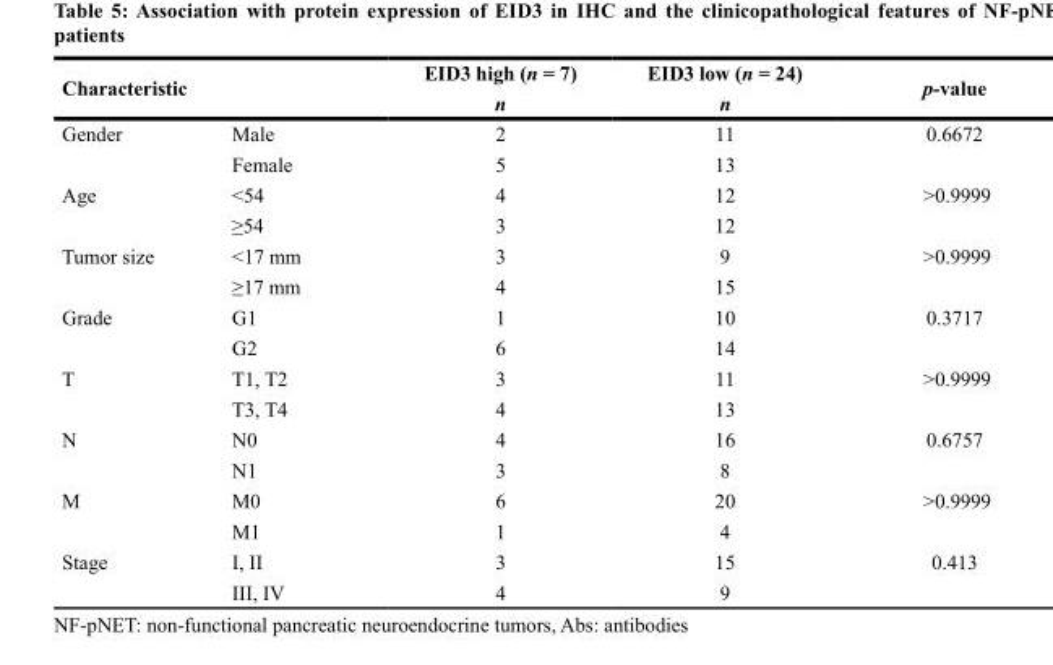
<table><thead><tr><td rowspan="2">Characteristic</td><td rowspan="2"></td><td rowspan="2">EID3 high (n = 7) n</td><td rowspan="2">EID3 low (n = 24) n</td><td rowspan="2">p-value</td></tr><tr></tr></thead><tbody><tr><td rowspan="2">Gender</td><td>Male</td><td>2</td><td>11</td><td>0.6672</td></tr><tr><td>Female</td><td>5</td><td>13</td><td></td></tr><tr><td rowspan="2">Age</td><td>&lt;54</td><td>4</td><td>12</td><td>&gt;0.9999</td></tr><tr><td>≥54</td><td>3</td><td>12</td><td></td></tr><tr><td rowspan="2">Tumor size</td><td>&lt;17 mm</td><td>3</td><td>9</td><td>&gt;0.9999</td></tr><tr><td>≥17 mm</td><td>4</td><td>15</td><td></td></tr><tr><td rowspan="2">Grade</td><td>G1</td><td>1</td><td>10</td><td>0.3717</td></tr><tr><td>G2</td><td>6</td><td>14</td><td></td></tr><tr><td rowspan="2">T</td><td>T1, T2</td><td>3</td><td>11</td><td>&gt;0.9999</td></tr><tr><td>T3, T4</td><td>4</td><td>13</td><td></td></tr><tr><td rowspan="2">N</td><td>N0</td><td>4</td><td>16</td><td>0.6757</td></tr><tr><td>N1</td><td>3</td><td>8</td><td></td></tr><tr><td rowspan="2">M</td><td>M0</td><td>6</td><td>20</td><td>&gt;0.9999</td></tr><tr><td>M1</td><td>1</td><td>4</td><td></td></tr><tr><td rowspan="2">Stage</td><td>I, II</td><td>3</td><td>15</td><td>0.413</td></tr><tr><td>III, IV</td><td>4</td><td>9</td><td></td></tr></tbody></table>